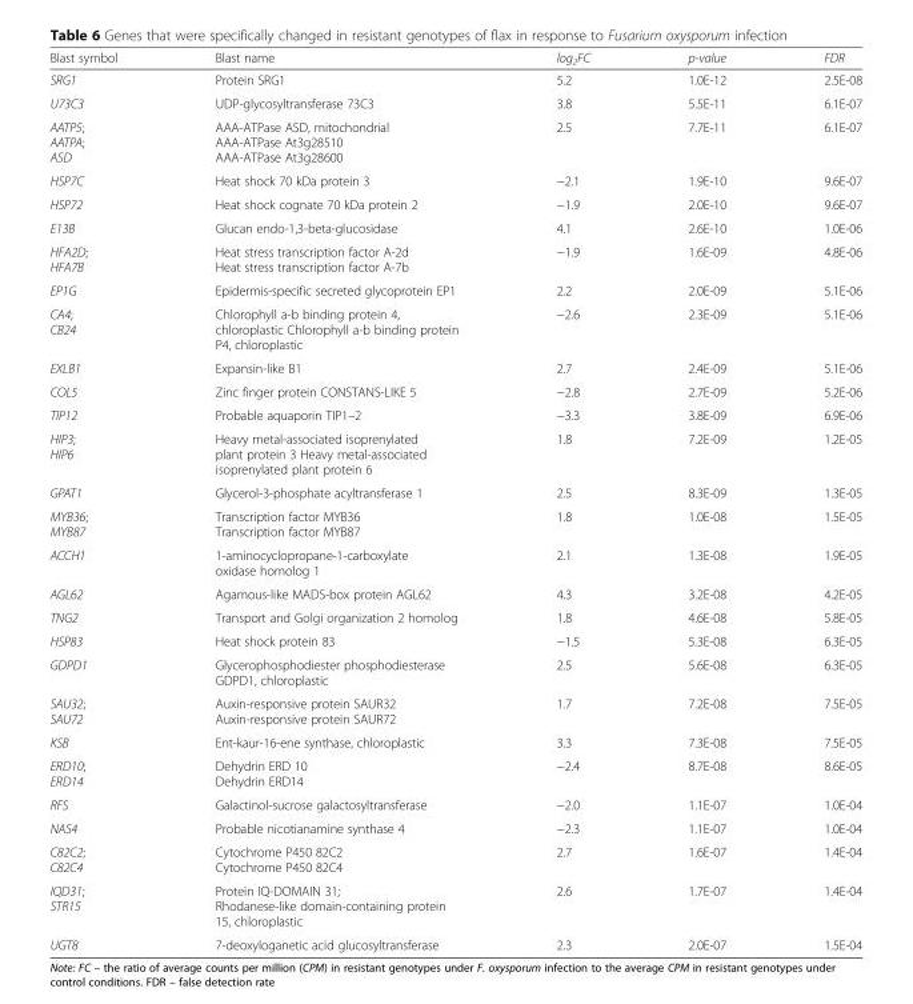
<table><thead><tr><td>Blast symbol</td><td>Blast name</td><td>log<sub>2</sub>FC</td><td>p-value</td><td>FDR</td></tr></thead><tbody><tr><td>SRG1</td><td>Protein SRG1</td><td>5.2</td><td>1.0E-12</td><td>2.5E-08</td></tr><tr><td>U73C3</td><td>UDP-glycosyltransferase 73C3</td><td>3.8</td><td>5.5E-11</td><td>6.1E-07</td></tr><tr><td>AATP5; AATPA; ASD</td><td>AAA-ATPase ASD, mitochondrial AAA-ATPase At3g28510 AAA-ATPase At3g28600</td><td>2.5</td><td>7.7E-11</td><td>6.1E-07</td></tr><tr><td>HSP7C</td><td>Heat shock 70 kDa protein 3</td><td>−2.1</td><td>1.9E-10</td><td>9.6E-07</td></tr><tr><td>HSP72</td><td>Heat shock cognate 70 kDa protein 2</td><td>−1.9</td><td>2.0E-10</td><td>9.6E-07</td></tr><tr><td>E13B</td><td>Glucan endo-1,3-beta-glucosidase</td><td>4.1</td><td>2.6E-10</td><td>1.0E-06</td></tr><tr><td>HFA2D; HFA7B</td><td>Heat stress transcription factor A-2d Heat stress transcription factor A-7b</td><td>−1.9</td><td>1.6E-09</td><td>4.8E-06</td></tr><tr><td>EP1G</td><td>Epidermis-specific secreted glycoprotein EP1</td><td>2.2</td><td>2.0E-09</td><td>5.1E-06</td></tr><tr><td>CA4; CB24</td><td>Chlorophyll a-b binding protein 4, chloroplastic Chlorophyll a-b binding protein P4, chloroplastic</td><td>−2.6</td><td>2.3E-09</td><td>5.1E-06</td></tr><tr><td>EXLB1</td><td>Expansin-like B1</td><td>2.7</td><td>2.4E-09</td><td>5.1E-06</td></tr><tr><td>COL5</td><td>Zinc finger protein CONSTANS-LIKE 5</td><td>−2.8</td><td>2.7E-09</td><td>5.2E-06</td></tr><tr><td>TIP12</td><td>Probable aquaporin TIP1–2</td><td>−3.3</td><td>3.8E-09</td><td>6.9E-06</td></tr><tr><td>HIP3; HIP6</td><td>Heavy metal-associated isoprenylated plant protein 3 Heavy metal-associated isoprenylated plant protein 6</td><td>1.8</td><td>7.2E-09</td><td>1.2E-05</td></tr><tr><td>GPAT1</td><td>Glycerol-3-phosphate acyltransferase 1</td><td>2.5</td><td>8.3E-09</td><td>1.3E-05</td></tr><tr><td>MYB36; MYB87</td><td>Transcription factor MYB36 Transcription factor MYB87</td><td>1.8</td><td>1.0E-08</td><td>1.5E-05</td></tr><tr><td>ACCH1</td><td>1-aminocyclopropane-1-carboxylate oxidase homolog 1</td><td>2.1</td><td>1.3E-08</td><td>1.9E-05</td></tr><tr><td>AGL62</td><td>Agamous-like MADS-box protein AGL62</td><td>4.3</td><td>3.2E-08</td><td>4.2E-05</td></tr><tr><td>TNG2</td><td>Transport and Golgi organization 2 homolog</td><td>1.8</td><td>4.6E-08</td><td>5.8E-05</td></tr><tr><td>HSP83</td><td>Heat shock protein 83</td><td>−1.5</td><td>5.3E-08</td><td>6.3E-05</td></tr><tr><td>GDPD1</td><td>Glycerophosphodiester phosphodiesterase GDPD1, chloroplastic</td><td>2.5</td><td>5.6E-08</td><td>6.3E-05</td></tr><tr><td>SAU32; SAU72</td><td>Auxin-responsive protein SAUR32 Auxin-responsive protein SAUR72</td><td>1.7</td><td>7.2E-08</td><td>7.5E-05</td></tr><tr><td>KSB</td><td>Ent-kaur-16-ene synthase, chloroplastic</td><td>3.3</td><td>7.3E-08</td><td>7.5E-05</td></tr><tr><td>ERD10; ERD14</td><td>Dehydrin ERD 10 Dehydrin ERD14</td><td>−2.4</td><td>8.7E-08</td><td>8.6E-05</td></tr><tr><td>RFS</td><td>Galactinol-sucrose galactosyltransferase</td><td>−2.0</td><td>1.1E-07</td><td>1.0E-04</td></tr><tr><td>NAS4</td><td>Probable nicotianamine synthase 4</td><td>−2.3</td><td>1.1E-07</td><td>1.0E-04</td></tr><tr><td>C82C2; C82C4</td><td>Cytochrome P450 82C2 Cytochrome P450 82C4</td><td>2.7</td><td>1.6E-07</td><td>1.4E-04</td></tr><tr><td>IQD31; STR15</td><td>Protein IQ-DOMAIN 31; Rhodanese-like domain-containing protein 15, chloroplastic</td><td>2.6</td><td>1.7E-07</td><td>1.4E-04</td></tr><tr><td>UGT8</td><td>7-deoxyloganetic acid glucosyltransferase</td><td>2.3</td><td>2.0E-07</td><td>1.5E-04</td></tr></tbody></table>